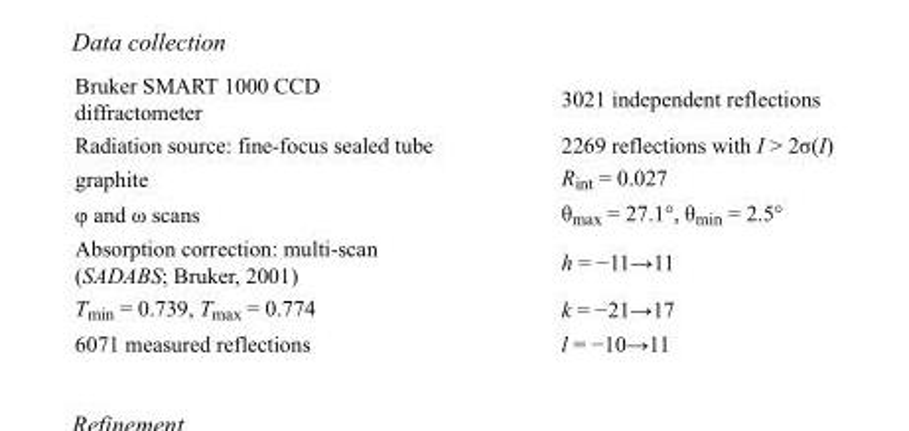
<table><tbody><tr><td>Bruker SMART 1000 CCD diffractometer</td><td>3021 independent reflections</td></tr><tr><td>Radiation source: fine-focus sealed tube</td><td>2269 reflections with I &gt; 2σ(I)</td></tr><tr><td>graphite</td><td>R<sub>int</sub> = 0.027</td></tr><tr><td>φ and ω scans</td><td>θ<sub>max</sub> = 27.1°, θ<sub>min</sub> = 2.5°</td></tr><tr><td>Absorption correction: multi-scan (SADABS; Bruker, 2001)</td><td>h = −11→11</td></tr><tr><td>T<sub>min</sub> = 0.739, T<sub>max</sub> = 0.774</td><td>k = −21→17</td></tr><tr><td>6071 measured reflections</td><td>l = −10→11</td></tr></tbody></table>